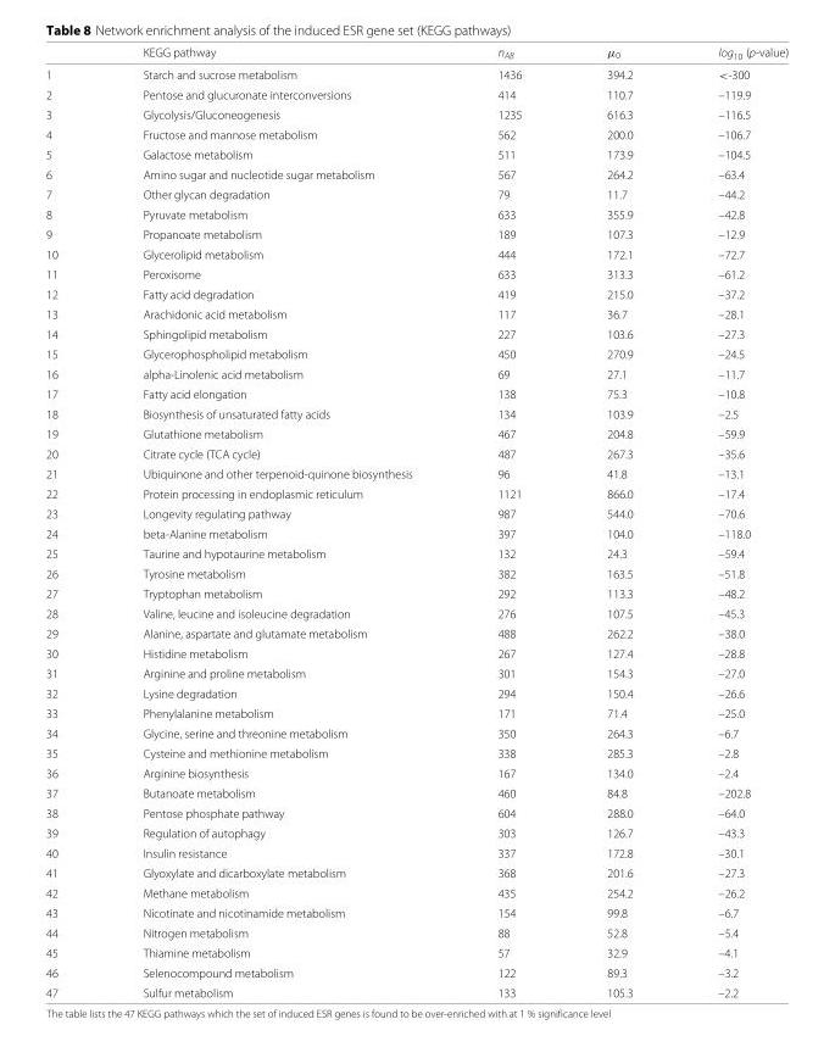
<table><thead><tr><td></td><td>KEGG pathway</td><td>n<sub>AB</sub></td><td>μ<sub>0</sub></td><td>log<sub>10</sub> (p-value)</td></tr></thead><tbody><tr><td>1</td><td>Starch and sucrose metabolism</td><td>1436</td><td>394.2</td><td>&lt;-300</td></tr><tr><td>2</td><td>Pentose and glucuronate interconversions</td><td>414</td><td>110.7</td><td>–119.9</td></tr><tr><td>3</td><td>Glycolysis/Gluconeogenesis</td><td>1235</td><td>616.3</td><td>–116.5</td></tr><tr><td>4</td><td>Fructose and mannose metabolism</td><td>562</td><td>200.0</td><td>–106.7</td></tr><tr><td>5</td><td>Galactose metabolism</td><td>511</td><td>173.9</td><td>–104.5</td></tr><tr><td>6</td><td>Amino sugar and nucleotide sugar metabolism</td><td>567</td><td>264.2</td><td>–63.4</td></tr><tr><td>7</td><td>Other glycan degradation</td><td>79</td><td>11.7</td><td>–44.2</td></tr><tr><td>8</td><td>Pyruvate metabolism</td><td>633</td><td>355.9</td><td>–42.8</td></tr><tr><td>9</td><td>Propanoate metabolism</td><td>189</td><td>107.3</td><td>–12.9</td></tr><tr><td>10</td><td>Glycerolipid metabolism</td><td>444</td><td>172.1</td><td>–72.7</td></tr><tr><td>11</td><td>Peroxisome</td><td>633</td><td>313.3</td><td>–61.2</td></tr><tr><td>12</td><td>Fatty acid degradation</td><td>419</td><td>215.0</td><td>–37.2</td></tr><tr><td>13</td><td>Arachidonic acid metabolism</td><td>117</td><td>36.7</td><td>–28.1</td></tr><tr><td>14</td><td>Sphingolipid metabolism</td><td>227</td><td>103.6</td><td>–27.3</td></tr><tr><td>15</td><td>Glycerophospholipid metabolism</td><td>450</td><td>270.9</td><td>–24.5</td></tr><tr><td>16</td><td>alpha-Linolenic acid metabolism</td><td>69</td><td>27.1</td><td>–11.7</td></tr><tr><td>17</td><td>Fatty acid elongation</td><td>138</td><td>75.3</td><td>–10.8</td></tr><tr><td>18</td><td>Biosynthesis of unsaturated fatty acids</td><td>134</td><td>103.9</td><td>–2.5</td></tr><tr><td>19</td><td>Glutathione metabolism</td><td>467</td><td>204.8</td><td>–59.9</td></tr><tr><td>20</td><td>Citrate cycle (TCA cycle)</td><td>487</td><td>267.3</td><td>–35.6</td></tr><tr><td>21</td><td>Ubiquinone and other terpenoid-quinone biosynthesis</td><td>96</td><td>41.8</td><td>–13.1</td></tr><tr><td>22</td><td>Protein processing in endoplasmic reticulum</td><td>1121</td><td>866.0</td><td>–17.4</td></tr><tr><td>23</td><td>Longevity regulating pathway</td><td>987</td><td>544.0</td><td>–70.6</td></tr><tr><td>24</td><td>beta-Alanine metabolism</td><td>397</td><td>104.0</td><td>–118.0</td></tr><tr><td>25</td><td>Taurine and hypotaurine metabolism</td><td>132</td><td>24.3</td><td>–59.4</td></tr><tr><td>26</td><td>Tyrosine metabolism</td><td>382</td><td>163.5</td><td>–51.8</td></tr><tr><td>27</td><td>Tryptophan metabolism</td><td>292</td><td>113.3</td><td>–48.2</td></tr><tr><td>28</td><td>Valine, leucine and isoleucine degradation</td><td>276</td><td>107.5</td><td>–45.3</td></tr><tr><td>29</td><td>Alanine, aspartate and glutamate metabolism</td><td>488</td><td>262.2</td><td>–38.0</td></tr><tr><td>30</td><td>Histidine metabolism</td><td>267</td><td>127.4</td><td>–28.8</td></tr><tr><td>31</td><td>Arginine and proline metabolism</td><td>301</td><td>154.3</td><td>–27.0</td></tr><tr><td>32</td><td>Lysine degradation</td><td>294</td><td>150.4</td><td>–26.6</td></tr><tr><td>33</td><td>Phenylalanine metabolism</td><td>171</td><td>71.4</td><td>–25.0</td></tr><tr><td>34</td><td>Glycine, serine and threonine metabolism</td><td>350</td><td>264.3</td><td>–6.7</td></tr><tr><td>35</td><td>Cysteine and methionine metabolism</td><td>338</td><td>285.3</td><td>–2.8</td></tr><tr><td>36</td><td>Arginine biosynthesis</td><td>167</td><td>134.0</td><td>–2.4</td></tr><tr><td>37</td><td>Butanoate metabolism</td><td>460</td><td>84.8</td><td>–202.8</td></tr><tr><td>38</td><td>Pentose phosphate pathway</td><td>604</td><td>288.0</td><td>–64.0</td></tr><tr><td>39</td><td>Regulation of autophagy</td><td>303</td><td>126.7</td><td>–43.3</td></tr><tr><td>40</td><td>Insulin resistance</td><td>337</td><td>172.8</td><td>–30.1</td></tr><tr><td>41</td><td>Glyoxylate and dicarboxylate metabolism</td><td>368</td><td>201.6</td><td>–27.3</td></tr><tr><td>42</td><td>Methane metabolism</td><td>435</td><td>254.2</td><td>–26.2</td></tr><tr><td>43</td><td>Nicotinate and nicotinamide metabolism</td><td>154</td><td>99.8</td><td>–6.7</td></tr><tr><td>44</td><td>Nitrogen metabolism</td><td>88</td><td>52.8</td><td>–5.4</td></tr><tr><td>45</td><td>Thiamine metabolism</td><td>57</td><td>32.9</td><td>–4.1</td></tr><tr><td>46</td><td>Selenocompound metabolism</td><td>122</td><td>89.3</td><td>–3.2</td></tr><tr><td>47</td><td>Sulfur metabolism</td><td>133</td><td>105.3</td><td>–2.2</td></tr></tbody></table>